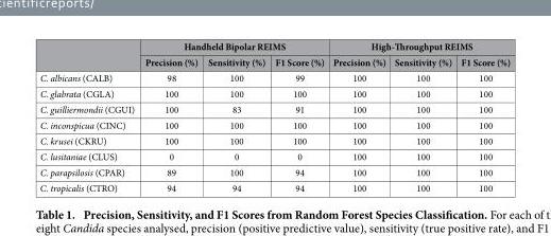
<table><thead><tr><td rowspan="2"></td><td colspan="3">Handheld Bipolar REIMS</td><td colspan="3">High-Throughput REIMS</td></tr><tr><td>Precision (%)</td><td>Sensitivity (%)</td><td>F1 Score (%)</td><td>Precision (%)</td><td>Sensitivity (%)</td><td>F1 Score (%)</td></tr></thead><tbody><tr><td>C. albicans (CALB)</td><td>98</td><td>100</td><td>99</td><td>100</td><td>100</td><td>100</td></tr><tr><td>C. glabrata (CGLA)</td><td>100</td><td>100</td><td>100</td><td>100</td><td>100</td><td>100</td></tr><tr><td>C. guilliermondii (CGUI)</td><td>100</td><td>83</td><td>91</td><td>100</td><td>100</td><td>100</td></tr><tr><td>C. inconspicua (CINC)</td><td>100</td><td>100</td><td>100</td><td>100</td><td>100</td><td>100</td></tr><tr><td>C. krusei (CKRU)</td><td>100</td><td>100</td><td>100</td><td>100</td><td>100</td><td>100</td></tr><tr><td>C. lusitaniae (CLUS)</td><td>0</td><td>0</td><td>0</td><td>100</td><td>100</td><td>100</td></tr><tr><td>C. parapsilosis (CPAR)</td><td>89</td><td>100</td><td>94</td><td>100</td><td>100</td><td>100</td></tr><tr><td>C. tropicalis (CTRO)</td><td>94</td><td>94</td><td>94</td><td>100</td><td>100</td><td>100</td></tr></tbody></table>